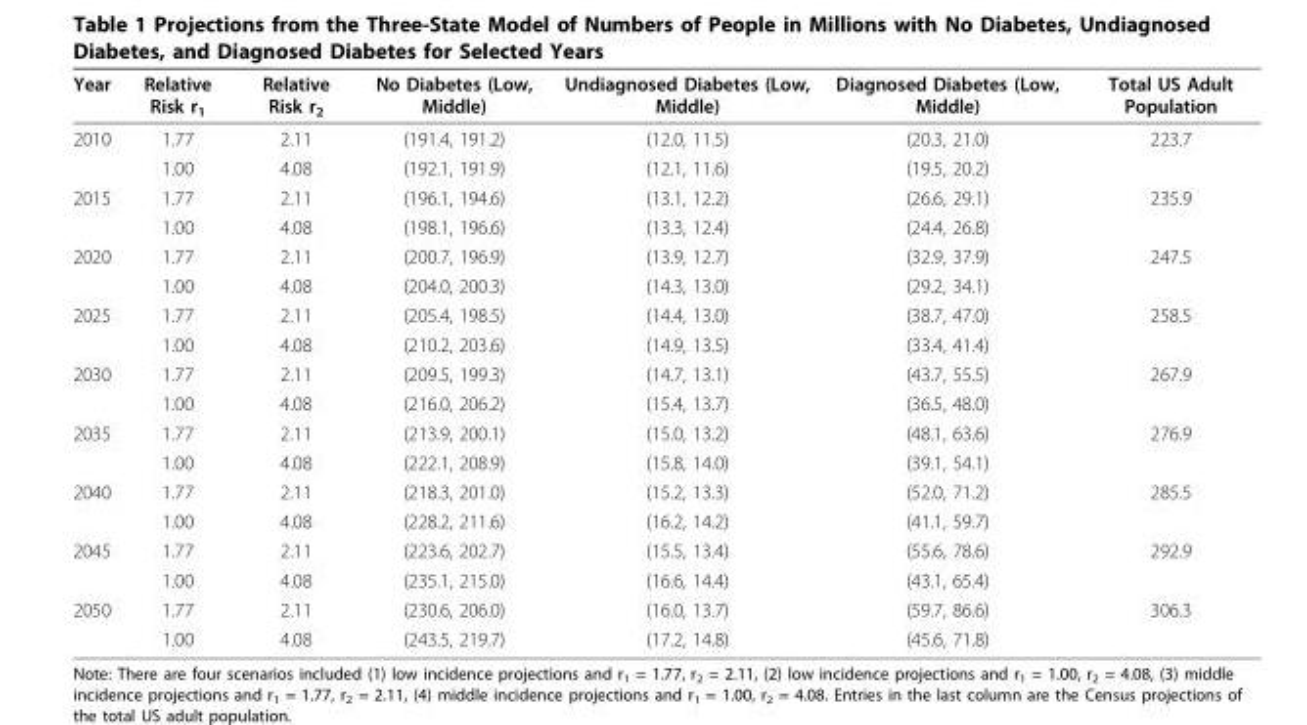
<table><thead><tr><td>Year</td><td>Relative Risk r<sub>1</sub></td><td>Relative Risk r<sub>2</sub></td><td>No Diabetes (Low, Middle)</td><td>Undiagnosed Diabetes (Low, Middle)</td><td>Diagnosed Diabetes (Low, Middle)</td><td>Total US Adult Population</td></tr></thead><tbody><tr><td rowspan="2">2010</td><td>1.77</td><td>2.11</td><td>(191.4, 191.2)</td><td>(12.0, 11.5)</td><td>(20.3, 21.0)</td><td>223.7</td></tr><tr><td>1.00</td><td>4.08</td><td>(192.1, 191.9)</td><td>(12.1, 11.6)</td><td>(19.5, 20.2)</td><td></td></tr><tr><td rowspan="2">2015</td><td>1.77</td><td>2.11</td><td>(196.1, 194.6)</td><td>(13.1, 12.2)</td><td>(26.6, 29.1)</td><td>235.9</td></tr><tr><td>1.00</td><td>4.08</td><td>(198.1, 196.6)</td><td>(13.3, 12.4)</td><td>(24.4, 26.8)</td><td></td></tr><tr><td rowspan="2">2020</td><td>1.77</td><td>2.11</td><td>(200.7, 196.9)</td><td>(13.9, 12.7)</td><td>(32.9, 37.9)</td><td>247.5</td></tr><tr><td>1.00</td><td>4.08</td><td>(204.0, 200.3)</td><td>(14.3, 13.0)</td><td>(29.2, 34.1)</td><td></td></tr><tr><td rowspan="2">2025</td><td>1.77</td><td>2.11</td><td>(205.4, 198.5)</td><td>(14.4, 13.0)</td><td>(38.7, 47.0)</td><td>258.5</td></tr><tr><td>1.00</td><td>4.08</td><td>(210.2, 203.6)</td><td>(14.9, 13.5)</td><td>(33.4, 41.4)</td><td></td></tr><tr><td rowspan="2">2030</td><td>1.77</td><td>2.11</td><td>(209.5, 199.3)</td><td>(14.7, 13.1)</td><td>(43.7, 55.5)</td><td>267.9</td></tr><tr><td>1.00</td><td>4.08</td><td>(216.0, 206.2)</td><td>(15.4, 13.7)</td><td>(36.5, 48.0)</td><td></td></tr><tr><td rowspan="2">2035</td><td>1.77</td><td>2.11</td><td>(213.9, 200.1)</td><td>(15.0, 13.2)</td><td>(48.1, 63.6)</td><td>276.9</td></tr><tr><td>1.00</td><td>4.08</td><td>(222.1, 208.9)</td><td>(15.8, 14.0)</td><td>(39.1, 54.1)</td><td></td></tr><tr><td rowspan="2">2040</td><td>1.77</td><td>2.11</td><td>(218.3, 201.0)</td><td>(15.2, 13.3)</td><td>(52.0, 71.2)</td><td>285.5</td></tr><tr><td>1.00</td><td>4.08</td><td>(228.2, 211.6)</td><td>(16.2, 14.2)</td><td>(41.1, 59.7)</td><td></td></tr><tr><td rowspan="2">2045</td><td>1.77</td><td>2.11</td><td>(223.6, 202.7)</td><td>(15.5, 13.4)</td><td>(55.6, 78.6)</td><td>292.9</td></tr><tr><td>1.00</td><td>4.08</td><td>(235.1, 215.0)</td><td>(16.6, 14.4)</td><td>(43.1, 65.4)</td><td></td></tr><tr><td rowspan="2">2050</td><td>1.77</td><td>2.11</td><td>(230.6, 206.0)</td><td>(16.0, 13.7)</td><td>(59.7, 86.6)</td><td>306.3</td></tr><tr><td>1.00</td><td>4.08</td><td>(243.5, 219.7)</td><td>(17.2, 14.8)</td><td>(45.6, 71.8)</td><td></td></tr></tbody></table>